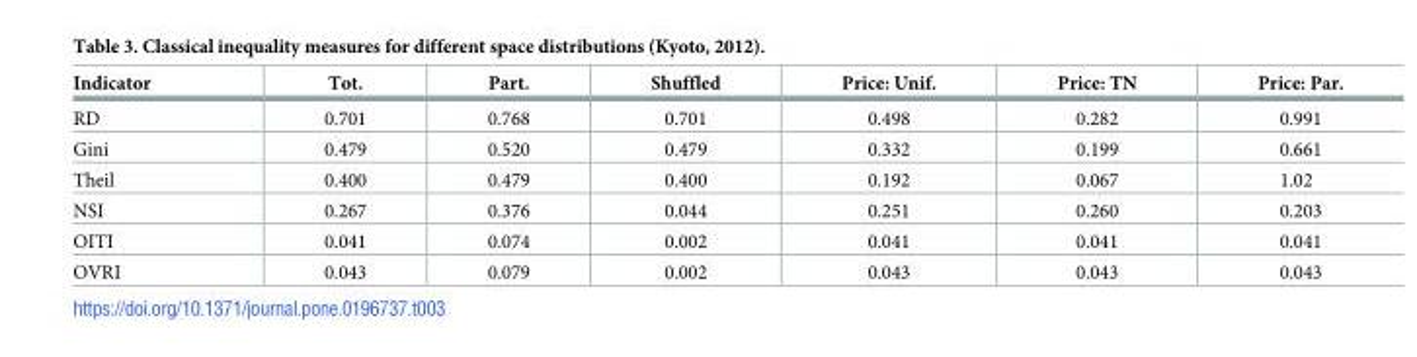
<table><thead><tr><td>Indicator</td><td>Tot.</td><td>Part.</td><td>Shuffled</td><td>Price: Unif.</td><td>Price: TN</td><td>Price: Par.</td></tr></thead><tbody><tr><td>RD</td><td>0.701</td><td>0.768</td><td>0.701</td><td>0.498</td><td>0.282</td><td>0.991</td></tr><tr><td>Gini</td><td>0.479</td><td>0.520</td><td>0.479</td><td>0.332</td><td>0.199</td><td>0.661</td></tr><tr><td>Theil</td><td>0.400</td><td>0.479</td><td>0.400</td><td>0.192</td><td>0.067</td><td>1.02</td></tr><tr><td>NSI</td><td>0.267</td><td>0.376</td><td>0.044</td><td>0.251</td><td>0.260</td><td>0.203</td></tr><tr><td>OITI</td><td>0.041</td><td>0.074</td><td>0.002</td><td>0.041</td><td>0.041</td><td>0.041</td></tr><tr><td>OVRI</td><td>0.043</td><td>0.079</td><td>0.002</td><td>0.043</td><td>0.043</td><td>0.043</td></tr></tbody></table>